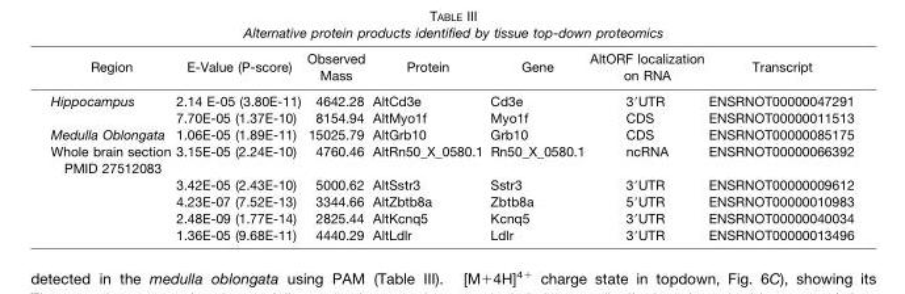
<table><thead><tr><td>Region</td><td>E-Value (P-score)</td><td>Observed Mass</td><td>Protein</td><td>Gene</td><td>AltORF localization on RNA</td><td>Transcript</td></tr></thead><tbody><tr><td rowspan="2">Hippocampus</td><td>2.14 E-05 (3.80E-11)</td><td>4642.28</td><td>AltCd3e</td><td>Cd3e</td><td>3′UTR</td><td>ENSRNOT00000047291</td></tr><tr><td>7.70E-05 (1.37E-10)</td><td>8154.94</td><td>AltMyo1f</td><td>Myo1f</td><td>CDS</td><td>ENSRNOT00000011513</td></tr><tr><td>Medulla Oblongata</td><td>1.06E-05 (1.89E-11)</td><td>15025.79</td><td>AltGrb10</td><td>Grb10</td><td>CDS</td><td>ENSRNOT00000085175</td></tr><tr><td rowspan="5">Whole brain section PMID 27512083</td><td>3.15E-05 (2.24E-10)</td><td>4760.46</td><td>AltRn50_X_0580.1</td><td>Rn50_X_0580.1</td><td>ncRNA</td><td>ENSRNOT00000066392</td></tr><tr><td>3.42E-05 (2.43E-10)</td><td>5000.62</td><td>AltSstr3</td><td>Sstr3</td><td>3′UTR</td><td>ENSRNOT00000009612</td></tr><tr><td>4.23E-07 (7.52E-13)</td><td>3344.66</td><td>AltZbtb8a</td><td>Zbtb8a</td><td>5′UTR</td><td>ENSRNOT00000010983</td></tr><tr><td>2.48E-09 (1.77E-14)</td><td>2825.44</td><td>AltKcnq5</td><td>Kcnq5</td><td>3′UTR</td><td>ENSRNOT00000040034</td></tr><tr><td>1.36E-05 (9.68E-11)</td><td>4440.29</td><td>AltLdlr</td><td>Ldlr</td><td>3′UTR</td><td>ENSRNOT00000013496</td></tr></tbody></table>